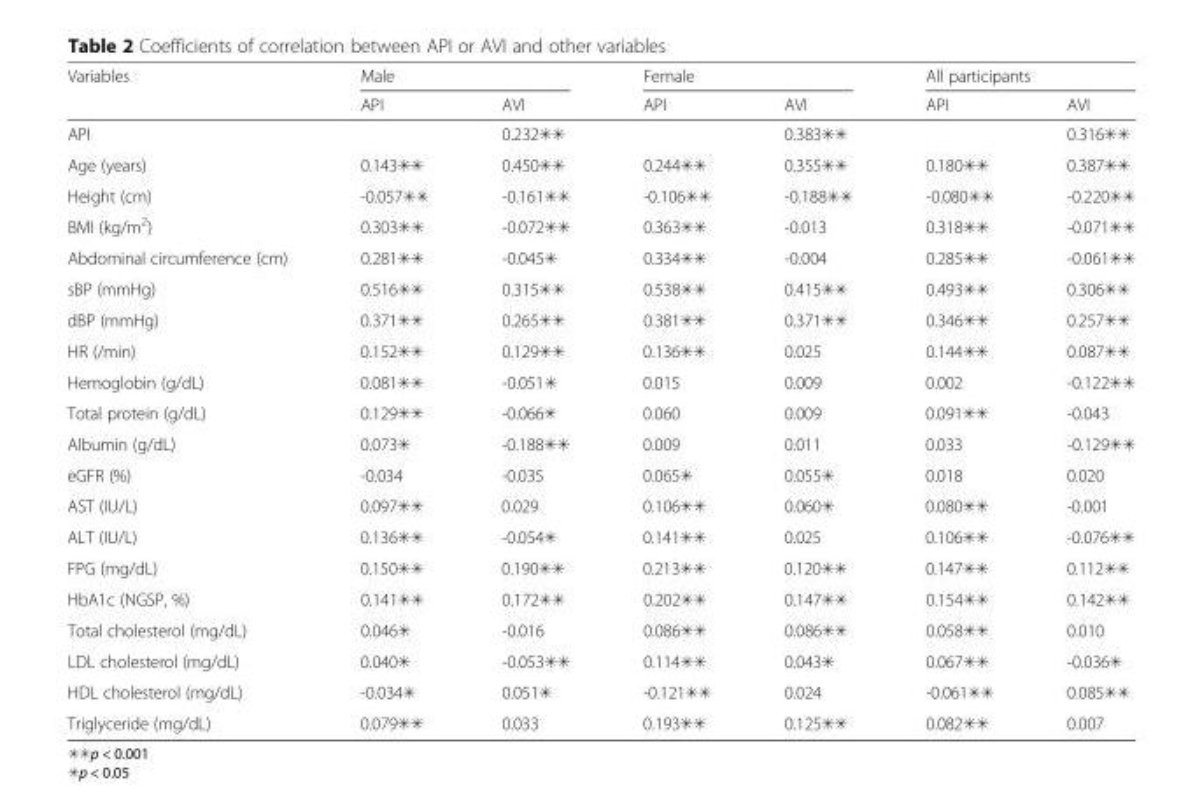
<table><thead><tr><td rowspan="2">Variables</td><td colspan="2">Male</td><td colspan="2">Female</td><td colspan="2">All participants</td></tr><tr><td>API</td><td>AVI</td><td>API</td><td>AVI</td><td>API</td><td>AVI</td></tr></thead><tbody><tr><td>API</td><td></td><td>0.232✳✳</td><td></td><td>0.383✳✳</td><td></td><td>0.316✳✳</td></tr><tr><td>Age (years)</td><td>0.143✳✳</td><td>0.450✳✳</td><td>0.244✳✳</td><td>0.355✳✳</td><td>0.180✳✳</td><td>0.387✳✳</td></tr><tr><td>Height (cm)</td><td>-0.057✳✳</td><td>-0.161✳✳</td><td>-0.106✳✳</td><td>-0.188✳✳</td><td>-0.080✳✳</td><td>-0.220✳✳</td></tr><tr><td>BMI (kg/m<sup>2</sup>)</td><td>0.303✳✳</td><td>-0.072✳✳</td><td>0.363✳✳</td><td>-0.013</td><td>0.318✳✳</td><td>-0.071✳✳</td></tr><tr><td>Abdominal circumference (cm)</td><td>0.281✳✳</td><td>-0.045✳</td><td>0.334✳✳</td><td>-0.004</td><td>0.285✳✳</td><td>-0.061✳✳</td></tr><tr><td>sBP (mmHg)</td><td>0.516✳✳</td><td>0.315✳✳</td><td>0.538✳✳</td><td>0.415✳✳</td><td>0.493✳✳</td><td>0.306✳✳</td></tr><tr><td>dBP (mmHg)</td><td>0.371✳✳</td><td>0.265✳✳</td><td>0.381✳✳</td><td>0.371✳✳</td><td>0.346✳✳</td><td>0.257✳✳</td></tr><tr><td>HR (/min)</td><td>0.152✳✳</td><td>0.129✳✳</td><td>0.136✳✳</td><td>0.025</td><td>0.144✳✳</td><td>0.087✳✳</td></tr><tr><td>Hemoglobin (g/dL)</td><td>0.081✳✳</td><td>-0.051✳</td><td>0.015</td><td>0.009</td><td>0.002</td><td>-0.122✳✳</td></tr><tr><td>Total protein (g/dL)</td><td>0.129✳✳</td><td>-0.066✳</td><td>0.060</td><td>0.009</td><td>0.091✳✳</td><td>-0.043</td></tr><tr><td>Albumin (g/dL)</td><td>0.073✳</td><td>-0.188✳✳</td><td>0.009</td><td>0.011</td><td>0.033</td><td>-0.129✳✳</td></tr><tr><td>eGFR (%)</td><td>-0.034</td><td>-0.035</td><td>0.065✳</td><td>0.055✳</td><td>0.018</td><td>0.020</td></tr><tr><td>AST (IU/L)</td><td>0.097✳✳</td><td>0.029</td><td>0.106✳✳</td><td>0.060✳</td><td>0.080✳✳</td><td>-0.001</td></tr><tr><td>ALT (IU/L)</td><td>0.136✳✳</td><td>-0.054✳</td><td>0.141✳✳</td><td>0.025</td><td>0.106✳✳</td><td>-0.076✳✳</td></tr><tr><td>FPG (mg/dL)</td><td>0.150✳✳</td><td>0.190✳✳</td><td>0.213✳✳</td><td>0.120✳✳</td><td>0.147✳✳</td><td>0.112✳✳</td></tr><tr><td>HbA1c (NGSP, %)</td><td>0.141✳✳</td><td>0.172✳✳</td><td>0.202✳✳</td><td>0.147✳✳</td><td>0.154✳✳</td><td>0.142✳✳</td></tr><tr><td>Total cholesterol (mg/dL)</td><td>0.046✳</td><td>-0.016</td><td>0.086✳✳</td><td>0.086✳✳</td><td>0.058✳✳</td><td>0.010</td></tr><tr><td>LDL cholesterol (mg/dL)</td><td>0.040✳</td><td>-0.053✳✳</td><td>0.114✳✳</td><td>0.043✳</td><td>0.067✳✳</td><td>-0.036✳</td></tr><tr><td>HDL cholesterol (mg/dL)</td><td>-0.034✳</td><td>0.051✳</td><td>-0.121✳✳</td><td>0.024</td><td>-0.061✳✳</td><td>0.085✳✳</td></tr><tr><td>Triglyceride (mg/dL)</td><td>0.079✳✳</td><td>0.033</td><td>0.193✳✳</td><td>0.125✳✳</td><td>0.082✳✳</td><td>0.007</td></tr></tbody></table>